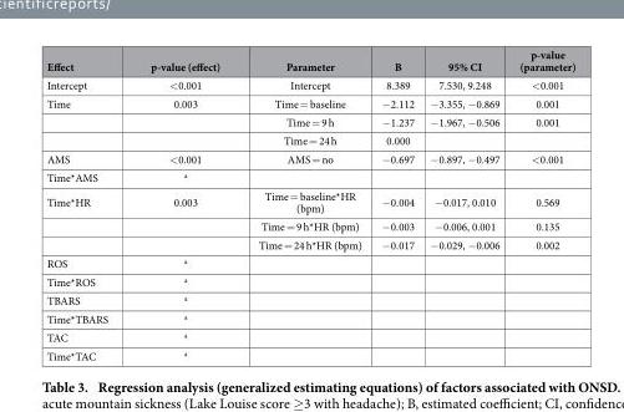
<table><thead><tr><td>Effect</td><td>p-value (effect)</td><td>Parameter</td><td>B</td><td>95% CI</td><td>p-value (parameter)</td></tr></thead><tbody><tr><td>Intercept</td><td>&lt; 0.001</td><td>Intercept</td><td>8.389</td><td>7.530, 9.248</td><td>&lt; 0.001</td></tr><tr><td rowspan="3">Time</td><td>0.003</td><td>Time = baseline</td><td>− 2.112</td><td>− 3.355, − 0.869</td><td>0.001</td></tr><tr><td></td><td>Time = 9 h</td><td>− 1.237</td><td>− 1.967, − 0.506</td><td>0.001</td></tr><tr><td></td><td>Time = 24 h</td><td>0.000</td><td></td><td></td></tr><tr><td>AMS</td><td>&lt; 0.001</td><td>AMS = no</td><td>− 0.697</td><td>− 0.897, − 0.497</td><td>&lt; 0.001</td></tr><tr><td>Time*AMS</td><td>a</td><td></td><td></td><td></td><td></td></tr><tr><td rowspan="3">Time*HR</td><td>0.003</td><td>Time = baseline*HR (bpm)</td><td>− 0.004</td><td>− 0.017, 0.010</td><td>0.569</td></tr><tr><td></td><td>Time = 9 h*HR (bpm)</td><td>− 0.003</td><td>− 0.006, 0.001</td><td>0.135</td></tr><tr><td></td><td>Time = 24 h*HR (bpm)</td><td>− 0.017</td><td>− 0.029, − 0.006</td><td>0.002</td></tr><tr><td>ROS</td><td>a</td><td></td><td></td><td></td><td></td></tr><tr><td>Time*ROS</td><td>a</td><td></td><td></td><td></td><td></td></tr><tr><td>TBARS</td><td>a</td><td></td><td></td><td></td><td></td></tr><tr><td>Time*TBARS</td><td>a</td><td></td><td></td><td></td><td></td></tr><tr><td>TAC</td><td>a</td><td></td><td></td><td></td><td></td></tr><tr><td>Time*TAC</td><td>a</td><td></td><td></td><td></td><td></td></tr></tbody></table>